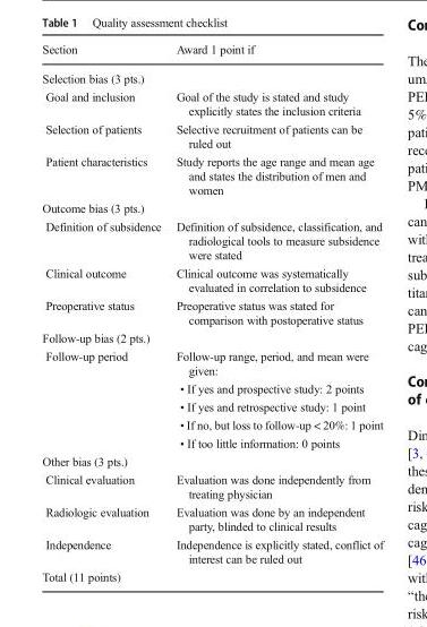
<table><thead><tr><td>Section</td><td>Award 1 point if</td></tr></thead><tbody><tr><td colspan="2">Selection bias (3 pts.)</td></tr><tr><td>Goal and inclusion</td><td>Goal of the study is stated and study explicitly states the inclusion criteria</td></tr><tr><td>Selection of patients</td><td>Selective recruitment of patients can be ruled out</td></tr><tr><td>Patient characteristics</td><td>Study reports the age range and mean age and states the distribution of men and women</td></tr><tr><td colspan="2">Outcome bias (3 pts.)</td></tr><tr><td>Definition of subsidence</td><td>Definition of subsidence, classification, and radiological tools to measure subsidence were stated</td></tr><tr><td>Clinical outcome</td><td>Clinical outcome was systematically evaluated in correlation to subsidence</td></tr><tr><td>Preoperative status</td><td>Preoperative status was stated for comparison with postoperative status</td></tr><tr><td colspan="2">Follow-up bias (2 pts.)</td></tr><tr><td rowspan="5">Follow-up period</td><td>Follow-up range, period, and mean were given:</td></tr><tr><td>• If yes and prospective study: 2 points</td></tr><tr><td>• If yes and retrospective study: 1 point</td></tr><tr><td>• If no, but loss to follow-up &lt; 20%: 1 point</td></tr><tr><td>• If too little information: 0 points</td></tr><tr><td colspan="2">Other bias (3 pts.)</td></tr><tr><td>Clinical evaluation</td><td>Evaluation was done independently from treating physician</td></tr><tr><td>Radiologic evaluation</td><td>Evaluation was done by an independent party, blinded to clinical results</td></tr><tr><td>Independence</td><td>Independence is explicitly stated, conflict of interest can be ruled out</td></tr><tr><td>Total (11 points)</td><td></td></tr></tbody></table>